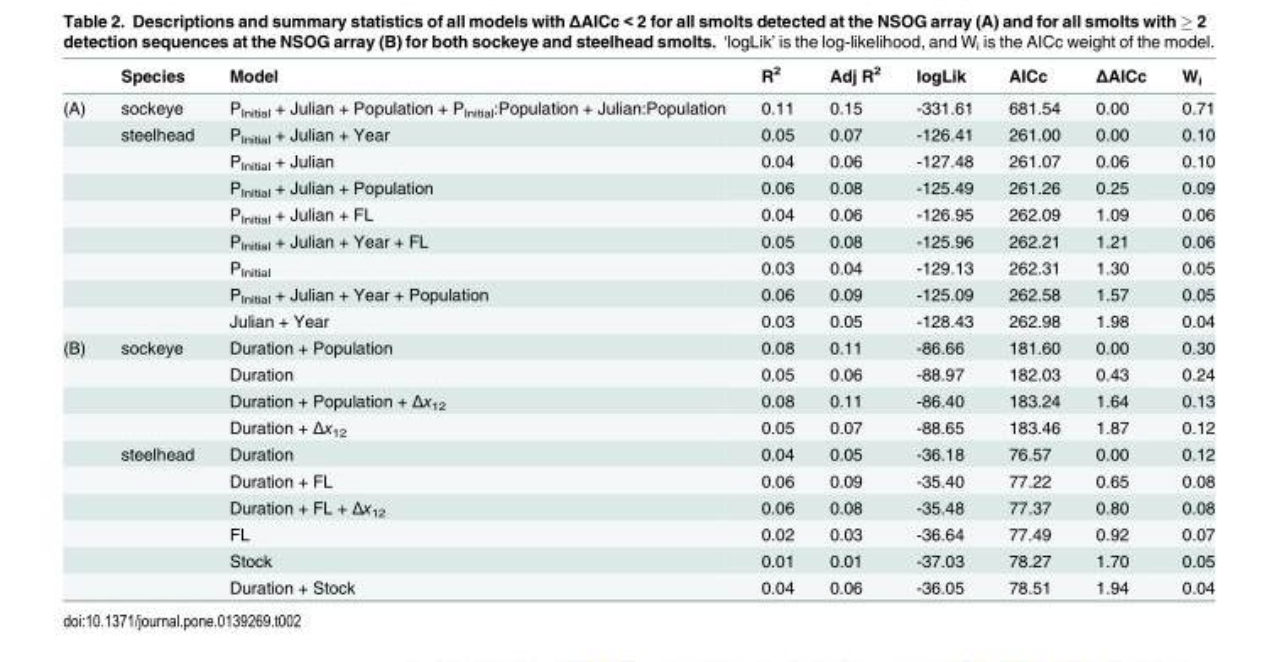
<table><thead><tr><td></td><td>Species</td><td>Model</td><td>R<sup>2</sup></td><td>Adj R<sup>2</sup></td><td>logLik</td><td>AICc</td><td>ΔAICc</td><td>W<sub>i</sub></td></tr></thead><tbody><tr><td rowspan="9">(A)</td><td>sockeye</td><td>P<sub>Initial</sub> + Julian + Population + P<sub>Initial</sub>:Population + Julian:Population</td><td>0.11</td><td>0.15</td><td>-331.61</td><td>681.54</td><td>0.00</td><td>0.71</td></tr><tr><td>steelhead</td><td>P<sub>Initial</sub> + Julian + Year</td><td>0.05</td><td>0.07</td><td>-126.41</td><td>261.00</td><td>0.00</td><td>0.10</td></tr><tr><td></td><td>P<sub>Initial</sub> + Julian</td><td>0.04</td><td>0.06</td><td>-127.48</td><td>261.07</td><td>0.06</td><td>0.10</td></tr><tr><td></td><td>P<sub>Initial</sub> + Julian + Population</td><td>0.06</td><td>0.08</td><td>-125.49</td><td>261.26</td><td>0.25</td><td>0.09</td></tr><tr><td></td><td>P<sub>Initial</sub> + Julian + FL</td><td>0.04</td><td>0.06</td><td>-126.95</td><td>262.09</td><td>1.09</td><td>0.06</td></tr><tr><td></td><td>P<sub>Initial</sub> + Julian + Year + FL</td><td>0.05</td><td>0.08</td><td>-125.96</td><td>262.21</td><td>1.21</td><td>0.06</td></tr><tr><td></td><td>P<sub>Initial</sub></td><td>0.03</td><td>0.04</td><td>-129.13</td><td>262.31</td><td>1.30</td><td>0.05</td></tr><tr><td></td><td>P<sub>Initial</sub> + Julian + Year + Population</td><td>0.06</td><td>0.09</td><td>-125.09</td><td>262.58</td><td>1.57</td><td>0.05</td></tr><tr><td></td><td>Julian + Year</td><td>0.03</td><td>0.05</td><td>-128.43</td><td>262.98</td><td>1.98</td><td>0.04</td></tr><tr><td rowspan="10">(B)</td><td>sockeye</td><td>Duration + Population</td><td>0.08</td><td>0.11</td><td>-86.66</td><td>181.60</td><td>0.00</td><td>0.30</td></tr><tr><td></td><td>Duration</td><td>0.05</td><td>0.06</td><td>-88.97</td><td>182.03</td><td>0.43</td><td>0.24</td></tr><tr><td></td><td>Duration + Population + Δx<sub>12</sub></td><td>0.08</td><td>0.11</td><td>-86.40</td><td>183.24</td><td>1.64</td><td>0.13</td></tr><tr><td></td><td>Duration + Δx<sub>12</sub></td><td>0.05</td><td>0.07</td><td>-88.65</td><td>183.46</td><td>1.87</td><td>0.12</td></tr><tr><td>steelhead</td><td>Duration</td><td>0.04</td><td>0.05</td><td>-36.18</td><td>76.57</td><td>0.00</td><td>0.12</td></tr><tr><td></td><td>Duration + FL</td><td>0.06</td><td>0.09</td><td>-35.40</td><td>77.22</td><td>0.65</td><td>0.08</td></tr><tr><td></td><td>Duration + FL + Δx<sub>12</sub></td><td>0.06</td><td>0.08</td><td>-35.48</td><td>77.37</td><td>0.80</td><td>0.08</td></tr><tr><td></td><td>FL</td><td>0.02</td><td>0.03</td><td>-36.64</td><td>77.49</td><td>0.92</td><td>0.07</td></tr><tr><td></td><td>Stock</td><td>0.01</td><td>0.01</td><td>-37.03</td><td>78.27</td><td>1.70</td><td>0.05</td></tr><tr><td></td><td>Duration + Stock</td><td>0.04</td><td>0.06</td><td>-36.05</td><td>78.51</td><td>1.94</td><td>0.04</td></tr></tbody></table>